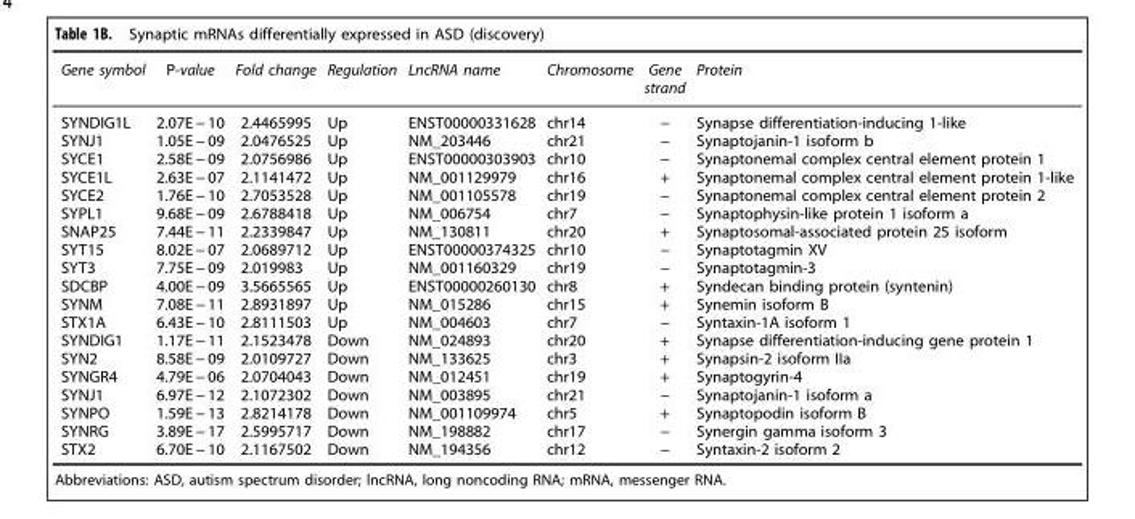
<table><thead><tr><td>Gene symbol</td><td>P-value</td><td>Fold change</td><td>Regulation</td><td>LncRNA name</td><td>Chromosome</td><td>Gene strand</td><td>Protein</td></tr></thead><tbody><tr><td>SYNDIG1L</td><td>2.07E − 10</td><td>2.4465995</td><td>Up</td><td>ENST00000331628</td><td>chr14</td><td>−</td><td>Synapse differentiation-inducing 1-like</td></tr><tr><td>SYNJ1</td><td>1.05E − 09</td><td>2.0476525</td><td>Up</td><td>NM_203446</td><td>chr21</td><td>−</td><td>Synaptojanin-1 isoform b</td></tr><tr><td>SYCE1</td><td>2.58E − 09</td><td>2.0756986</td><td>Up</td><td>ENST00000303903</td><td>chr10</td><td>−</td><td>Synaptonemal complex central element protein 1</td></tr><tr><td>SYCE1L</td><td>2.63E − 07</td><td>2.1141472</td><td>Up</td><td>NM_001129979</td><td>chr16</td><td>+</td><td>Synaptonemal complex central element protein 1-like</td></tr><tr><td>SYCE2</td><td>1.76E − 10</td><td>2.7053528</td><td>Up</td><td>NM_001105578</td><td>chr19</td><td>−</td><td>Synaptonemal complex central element protein 2</td></tr><tr><td>SYPL1</td><td>9.68E − 09</td><td>2.6788418</td><td>Up</td><td>NM_006754</td><td>chr7</td><td>−</td><td>Synaptophysin-like protein 1 isoform a</td></tr><tr><td>SNAP25</td><td>7.44E − 11</td><td>2.2339847</td><td>Up</td><td>NM_130811</td><td>chr20</td><td>+</td><td>Synaptosomal-associated protein 25 isoform</td></tr><tr><td>SYT15</td><td>8.02E − 07</td><td>2.0689712</td><td>Up</td><td>ENST00000374325</td><td>chr10</td><td>−</td><td>Synaptotagmin XV</td></tr><tr><td>SYT3</td><td>7.75E − 09</td><td>2.019983</td><td>Up</td><td>NM_001160329</td><td>chr19</td><td>−</td><td>Synaptotagmin-3</td></tr><tr><td>SDCBP</td><td>4.00E − 09</td><td>3.5665565</td><td>Up</td><td>ENST00000260130</td><td>chr8</td><td>+</td><td>Syndecan binding protein (syntenin)</td></tr><tr><td>SYNM</td><td>7.08E − 11</td><td>2.8931897</td><td>Up</td><td>NM_015286</td><td>chr15</td><td>+</td><td>Synemin isoform B</td></tr><tr><td>STX1A</td><td>6.43E − 10</td><td>2.8111503</td><td>Up</td><td>NM_004603</td><td>chr7</td><td>−</td><td>Syntaxin-1A isoform 1</td></tr><tr><td>SYNDIG1</td><td>1.17E − 11</td><td>2.1523478</td><td>Down</td><td>NM_024893</td><td>chr20</td><td>+</td><td>Synapse differentiation-inducing gene protein 1</td></tr><tr><td>SYN2</td><td>8.58E − 09</td><td>2.0109727</td><td>Down</td><td>NM_133625</td><td>chr3</td><td>+</td><td>Synapsin-2 isoform IIa</td></tr><tr><td>SYNGR4</td><td>4.79E − 06</td><td>2.0704043</td><td>Down</td><td>NM_012451</td><td>chr19</td><td>+</td><td>Synaptogyrin-4</td></tr><tr><td>SYNJ1</td><td>6.97E − 12</td><td>2.1072302</td><td>Down</td><td>NM_003895</td><td>chr21</td><td>−</td><td>Synaptojanin-1 isoform a</td></tr><tr><td>SYNPO</td><td>1.59E − 13</td><td>2.8214178</td><td>Down</td><td>NM_001109974</td><td>chr5</td><td>+</td><td>Synaptopodin isoform B</td></tr><tr><td>SYNRG</td><td>3.89E − 17</td><td>2.5995717</td><td>Down</td><td>NM_198882</td><td>chr17</td><td>−</td><td>Synergin gamma isoform 3</td></tr><tr><td>STX2</td><td>6.70E − 10</td><td>2.1167502</td><td>Down</td><td>NM_194356</td><td>chr12</td><td>−</td><td>Syntaxin-2 isoform 2</td></tr></tbody></table>